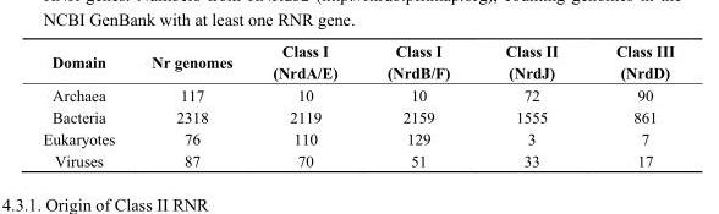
<table><thead><tr><td>Domain</td><td>Nr genomes</td><td>Class I (NrdA/E)</td><td>Class I (NrdB/F)</td><td>Class II (NrdJ)</td><td>Class III (NrdD)</td></tr></thead><tbody><tr><td>Archaea</td><td>117</td><td>10</td><td>10</td><td>72</td><td>90</td></tr><tr><td>Bacteria</td><td>2318</td><td>2119</td><td>2159</td><td>1555</td><td>861</td></tr><tr><td>Eukaryotes</td><td>76</td><td>110</td><td>129</td><td>3</td><td>7</td></tr><tr><td>Viruses</td><td>87</td><td>70</td><td>51</td><td>33</td><td>17</td></tr></tbody></table>